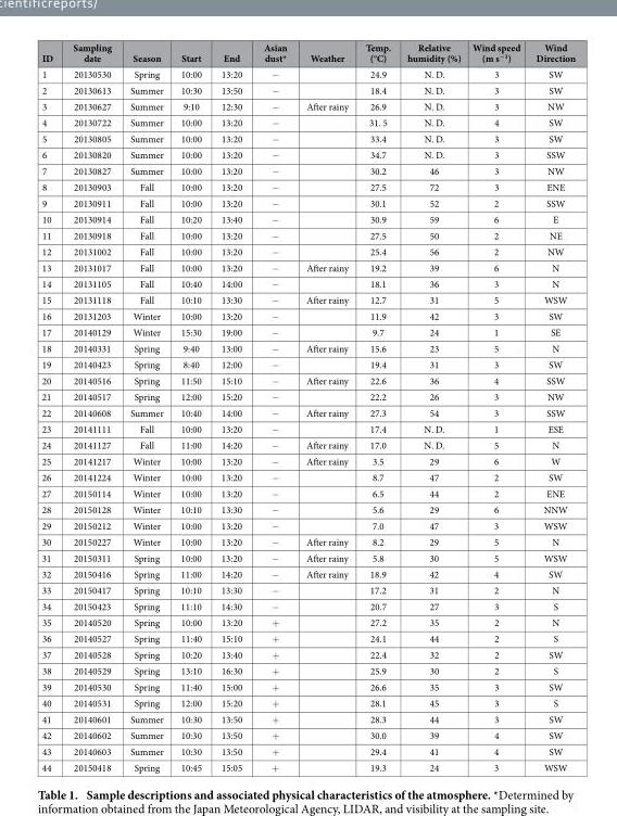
<table><thead><tr><td>ID</td><td>Sampling date</td><td>Season</td><td>Start</td><td>End</td><td>Asian dust*</td><td>Weather</td><td>Temp. (°C)</td><td>Relative humidity (%)</td><td>Wind speed (m s<sup>−1</sup>)</td><td>Wind Direction</td></tr></thead><tbody><tr><td>1</td><td>20130530</td><td>Spring</td><td>10:00</td><td>13:20</td><td>−</td><td></td><td>24.9</td><td>N. D.</td><td>3</td><td>SW</td></tr><tr><td>2</td><td>20130613</td><td>Summer</td><td>10:30</td><td>13:50</td><td>−</td><td></td><td>18.4</td><td>N. D.</td><td>3</td><td>SW</td></tr><tr><td>3</td><td>20130627</td><td>Summer</td><td>9:10</td><td>12:30</td><td>−</td><td>After rainy</td><td>26.9</td><td>N. D.</td><td>3</td><td>NW</td></tr><tr><td>4</td><td>20130722</td><td>Summer</td><td>10:00</td><td>13:20</td><td>−</td><td></td><td>31. 5</td><td>N. D.</td><td>4</td><td>SW</td></tr><tr><td>5</td><td>20130805</td><td>Summer</td><td>10:00</td><td>13:20</td><td>−</td><td></td><td>33.4</td><td>N. D.</td><td>3</td><td>SW</td></tr><tr><td>6</td><td>20130820</td><td>Summer</td><td>10:00</td><td>13:20</td><td>−</td><td></td><td>34.7</td><td>N. D.</td><td>3</td><td>SSW</td></tr><tr><td>7</td><td>20130827</td><td>Summer</td><td>10:00</td><td>13:20</td><td>−</td><td></td><td>30.2</td><td>46</td><td>3</td><td>NW</td></tr><tr><td>8</td><td>20130903</td><td>Fall</td><td>10:00</td><td>13:20</td><td>−</td><td></td><td>27.5</td><td>72</td><td>3</td><td>ENE</td></tr><tr><td>9</td><td>20130911</td><td>Fall</td><td>10:00</td><td>13:20</td><td>−</td><td></td><td>30.1</td><td>52</td><td>2</td><td>SSW</td></tr><tr><td>10</td><td>20130914</td><td>Fall</td><td>10:20</td><td>13:40</td><td>−</td><td></td><td>30.9</td><td>59</td><td>6</td><td>E</td></tr><tr><td>11</td><td>20130918</td><td>Fall</td><td>10:00</td><td>13:20</td><td>−</td><td></td><td>27.5</td><td>50</td><td>2</td><td>NE</td></tr><tr><td>12</td><td>20131002</td><td>Fall</td><td>10:00</td><td>13:20</td><td>−</td><td></td><td>25.4</td><td>56</td><td>2</td><td>NW</td></tr><tr><td>13</td><td>20131017</td><td>Fall</td><td>10:00</td><td>13:20</td><td>−</td><td>After rainy</td><td>19.2</td><td>39</td><td>6</td><td>N</td></tr><tr><td>14</td><td>20131105</td><td>Fall</td><td>10:40</td><td>14:00</td><td>−</td><td></td><td>18.1</td><td>36</td><td>3</td><td>N</td></tr><tr><td>15</td><td>20131118</td><td>Fall</td><td>10:10</td><td>13:30</td><td>−</td><td>After rainy</td><td>12.7</td><td>31</td><td>5</td><td>WSW</td></tr><tr><td>16</td><td>20131203</td><td>Winter</td><td>10:00</td><td>13:20</td><td>−</td><td></td><td>11.9</td><td>42</td><td>3</td><td>SW</td></tr><tr><td>17</td><td>20140129</td><td>Winter</td><td>15:30</td><td>19:00</td><td>−</td><td></td><td>9.7</td><td>24</td><td>1</td><td>SE</td></tr><tr><td>18</td><td>20140331</td><td>Spring</td><td>9:40</td><td>13:00</td><td>−</td><td>After rainy</td><td>15.6</td><td>23</td><td>5</td><td>N</td></tr><tr><td>19</td><td>20140423</td><td>Spring</td><td>8:40</td><td>12:00</td><td>−</td><td></td><td>19.4</td><td>31</td><td>3</td><td>SW</td></tr><tr><td>20</td><td>20140516</td><td>Spring</td><td>11:50</td><td>15:10</td><td>−</td><td>After rainy</td><td>22.6</td><td>36</td><td>4</td><td>SSW</td></tr><tr><td>21</td><td>20140517</td><td>Spring</td><td>12:00</td><td>15:20</td><td>−</td><td></td><td>22.2</td><td>26</td><td>3</td><td>NW</td></tr><tr><td>22</td><td>20140608</td><td>Summer</td><td>10:40</td><td>14:00</td><td>−</td><td>After rainy</td><td>27.3</td><td>54</td><td>3</td><td>SSW</td></tr><tr><td>23</td><td>20141111</td><td>Fall</td><td>10:00</td><td>13:20</td><td>−</td><td></td><td>17.4</td><td>N. D.</td><td>1</td><td>ESE</td></tr><tr><td>24</td><td>20141127</td><td>Fall</td><td>11:00</td><td>14:20</td><td>−</td><td>After rainy</td><td>17.0</td><td>N. D.</td><td>5</td><td>N</td></tr><tr><td>25</td><td>20141217</td><td>Winter</td><td>10:00</td><td>13:20</td><td>−</td><td>After rainy</td><td>3.5</td><td>29</td><td>6</td><td>W</td></tr><tr><td>26</td><td>20141224</td><td>Winter</td><td>10:00</td><td>13:20</td><td>−</td><td></td><td>8.7</td><td>47</td><td>2</td><td>SW</td></tr><tr><td>27</td><td>20150114</td><td>Winter</td><td>10:00</td><td>13:20</td><td>−</td><td></td><td>6.5</td><td>44</td><td>2</td><td>ENE</td></tr><tr><td>28</td><td>20150128</td><td>Winter</td><td>10:10</td><td>13:30</td><td>−</td><td></td><td>5.6</td><td>29</td><td>6</td><td>NNW</td></tr><tr><td>29</td><td>20150212</td><td>Winter</td><td>10:00</td><td>13:20</td><td>−</td><td></td><td>7.0</td><td>47</td><td>3</td><td>WSW</td></tr><tr><td>30</td><td>20150227</td><td>Winter</td><td>10:00</td><td>13:20</td><td>−</td><td>After rainy</td><td>8.2</td><td>29</td><td>5</td><td>N</td></tr><tr><td>31</td><td>20150311</td><td>Spring</td><td>10:00</td><td>13:20</td><td>−</td><td>After rainy</td><td>5.8</td><td>30</td><td>5</td><td>WSW</td></tr><tr><td>32</td><td>20150416</td><td>Spring</td><td>11:00</td><td>14:20</td><td>−</td><td>After rainy</td><td>18.9</td><td>42</td><td>4</td><td>SW</td></tr><tr><td>33</td><td>20150417</td><td>Spring</td><td>10:10</td><td>13:30</td><td>−</td><td></td><td>17.2</td><td>31</td><td>2</td><td>N</td></tr><tr><td>34</td><td>20150423</td><td>Spring</td><td>11:10</td><td>14:30</td><td>−</td><td></td><td>20.7</td><td>27</td><td>3</td><td>S</td></tr><tr><td>35</td><td>20140520</td><td>Spring</td><td>10:00</td><td>13:20</td><td>+</td><td></td><td>27.2</td><td>35</td><td>2</td><td>N</td></tr><tr><td>36</td><td>20140527</td><td>Spring</td><td>11:40</td><td>15:10</td><td>+</td><td></td><td>24.1</td><td>44</td><td>2</td><td>S</td></tr><tr><td>37</td><td>20140528</td><td>Spring</td><td>10:20</td><td>13:40</td><td>+</td><td></td><td>22.4</td><td>32</td><td>2</td><td>SW</td></tr><tr><td>38</td><td>20140529</td><td>Spring</td><td>13:10</td><td>16:30</td><td>+</td><td></td><td>25.9</td><td>30</td><td>2</td><td>S</td></tr><tr><td>39</td><td>20140530</td><td>Spring</td><td>11:40</td><td>15:00</td><td>+</td><td></td><td>26.6</td><td>35</td><td>3</td><td>SW</td></tr><tr><td>40</td><td>20140531</td><td>Spring</td><td>12:00</td><td>15:20</td><td>+</td><td></td><td>28.1</td><td>45</td><td>3</td><td>S</td></tr><tr><td>41</td><td>20140601</td><td>Summer</td><td>10:30</td><td>13:50</td><td>+</td><td></td><td>28.3</td><td>44</td><td>3</td><td>SW</td></tr><tr><td>42</td><td>20140602</td><td>Summer</td><td>10:30</td><td>13:50</td><td>+</td><td></td><td>30.0</td><td>39</td><td>4</td><td>SW</td></tr><tr><td>43</td><td>20140603</td><td>Summer</td><td>10:30</td><td>13:50</td><td>+</td><td></td><td>29.4</td><td>41</td><td>4</td><td>SW</td></tr><tr><td>44</td><td>20150418</td><td>Spring</td><td>10:45</td><td>15:05</td><td>+</td><td></td><td>19.3</td><td>24</td><td>3</td><td>WSW</td></tr></tbody></table>